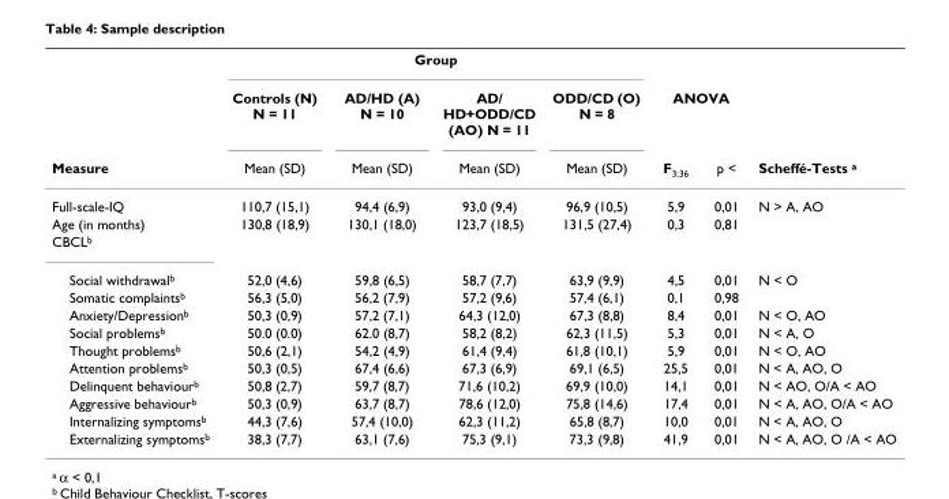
<table><thead><tr><td rowspan="3">Measure</td><td colspan="4">Group</td><td></td><td></td><td rowspan="3">Scheffé-Tests <sup>a</sup></td></tr><tr><td rowspan="2">Controls (N) N = 11 Mean (SD)</td><td rowspan="2">AD/HD (A) N = 10 Mean (SD)</td><td rowspan="2">AD/ HD+ODD/CD (AO) N = 11 Mean (SD)</td><td rowspan="2">ODD/CD (O) N = 8 Mean (SD)</td><td colspan="2">ANOVA</td></tr><tr><td>F<sub>3;36</sub></td><td>p &lt;</td></tr></thead><tbody><tr><td>Full-scale-IQ</td><td>110,7 (15,1)</td><td>94,4 (6,9)</td><td>93,0 (9,4)</td><td>96,9 (10,5)</td><td>5,9</td><td>0,01</td><td>N &gt; A, AO</td></tr><tr><td>Age (in months)</td><td>130,8 (18,9)</td><td>130,1 (18,0)</td><td>123,7 (18,5)</td><td>131,5 (27,4)</td><td>0,3</td><td>0,81</td><td></td></tr><tr><td colspan="8">CBCL<sup>b</sup></td></tr><tr><td>Social withdrawal<sup>b</sup></td><td>52,0 (4,6)</td><td>59,8 (6,5)</td><td>58,7 (7,7)</td><td>63,9 (9,9)</td><td>4,5</td><td>0,01</td><td>N &lt; O</td></tr><tr><td>Somatic complaints<sup>b</sup></td><td>56,3 (5,0)</td><td>56,2 (7,9)</td><td>57,2 (9,6)</td><td>57,4 (6,1)</td><td>0,1</td><td>0,98</td><td></td></tr><tr><td>Anxiety/Depression<sup>b</sup></td><td>50,3 (0,9)</td><td>57,2 (7,1)</td><td>64,3 (12,0)</td><td>67,3 (8,8)</td><td>8,4</td><td>0,01</td><td>N &lt; O, AO</td></tr><tr><td>Social problems<sup>b</sup></td><td>50.0 (0.0)</td><td>62.0 (8,7)</td><td>58,2 (8,2)</td><td>62,3 (11,5)</td><td>5,3</td><td>0,01</td><td>N &lt; A, O</td></tr><tr><td>Thought problems<sup>b</sup></td><td>50,6 (2,1)</td><td>54,2 (4,9)</td><td>61,4 (9,4)</td><td>61,8 (10,1)</td><td>5,9</td><td>0,01</td><td>N &lt; O, AO</td></tr><tr><td>Attention problems<sup>b</sup></td><td>50,3 (0,5)</td><td>67,4 (6,6)</td><td>67,3 (6,9)</td><td>69,1 (6,5)</td><td>25,5</td><td>0,01</td><td>N &lt; A, AO, O</td></tr><tr><td>Delinquent behaviour<sup>b</sup></td><td>50,8 (2,7)</td><td>59,7 (8,7)</td><td>71,6 (10,2)</td><td>69,9 (10,0)</td><td>14,1</td><td>0,01</td><td>N &lt; AO, O/A &lt; AO</td></tr><tr><td>Aggressive behaviour<sup>b</sup></td><td>50,3 (0,9)</td><td>63,7 (8,7)</td><td>78,6 (12,0)</td><td>75,8 (14,6)</td><td>17,4</td><td>0,01</td><td>N &lt; A, AO, O/A &lt; AO</td></tr><tr><td>Internalizing symptoms<sup>b</sup></td><td>44,3 (7,6)</td><td>57,4 (10,0)</td><td>62,3 (11,2)</td><td>65,8 (8,7)</td><td>10,0</td><td>0,01</td><td>N &lt; A, AO, O</td></tr><tr><td>Externalizing symptoms<sup>b</sup></td><td>38,3 (7,7)</td><td>63,1 (7,6)</td><td>75,3 (9,1)</td><td>73,3 (9,8)</td><td>41,9</td><td>0,01</td><td>N &lt; A, AO, O /A &lt; AO</td></tr></tbody></table>